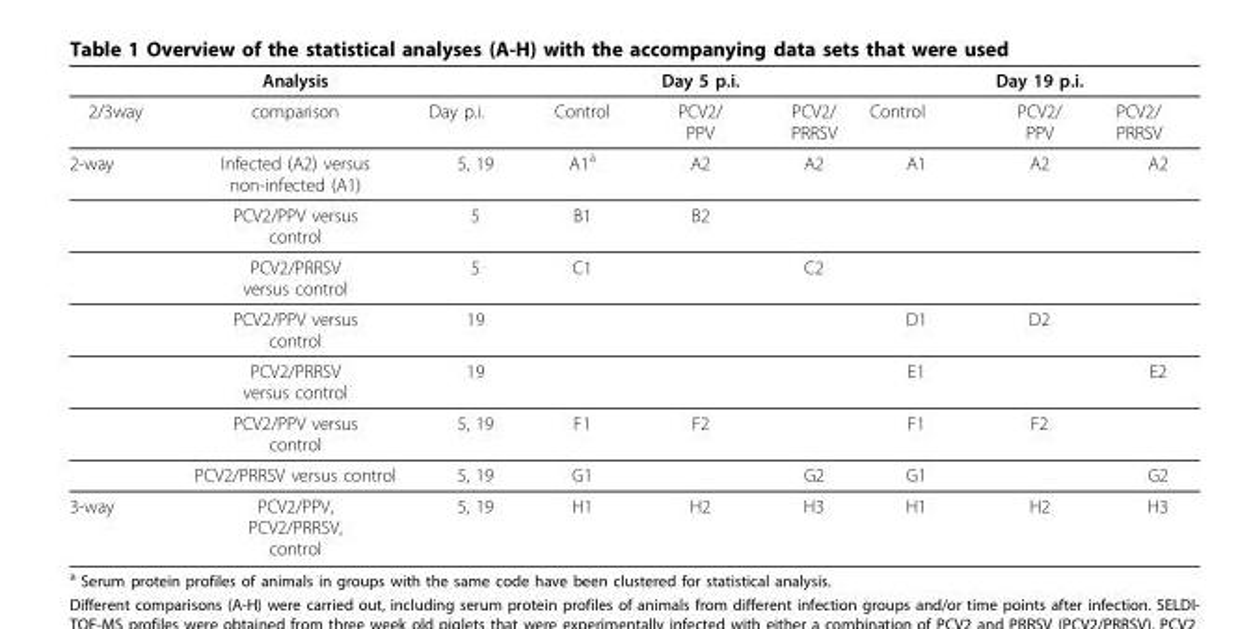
<table><thead><tr><td></td><td>Analysis</td><td></td><td></td><td>Day 5 p.i.</td><td></td><td></td><td>Day 19 p.i.</td><td></td></tr></thead><tbody><tr><td>2/3way</td><td>comparison</td><td>Day p.i.</td><td>Control</td><td>PCV2/ PPV</td><td>PCV2/ PRRSV</td><td>Control</td><td>PCV2/ PPV</td><td>PCV2/ PRRSV</td></tr><tr><td rowspan="7">2-way</td><td>Infected (A2) versus non-infected (A1)</td><td>5, 19</td><td>A1<sup>a</sup></td><td>A2</td><td>A2</td><td>A1</td><td>A2</td><td>A2</td></tr><tr><td>PCV2/PPV versus control</td><td>5</td><td>B1</td><td>B2</td><td></td><td></td><td></td><td></td></tr><tr><td>PCV2/PRRSV versus control</td><td>5</td><td>C1</td><td></td><td>C2</td><td></td><td></td><td></td></tr><tr><td>PCV2/PPV versus control</td><td>19</td><td></td><td></td><td></td><td>D1</td><td>D2</td><td></td></tr><tr><td>PCV2/PRRSV versus control</td><td>19</td><td></td><td></td><td></td><td>E1</td><td></td><td>E2</td></tr><tr><td>PCV2/PPV versus control</td><td>5, 19</td><td>F1</td><td>F2</td><td></td><td>F1</td><td>F2</td><td></td></tr><tr><td>PCV2/PRRSV versus control</td><td>5, 19</td><td>G1</td><td></td><td>G2</td><td>G1</td><td></td><td>G2</td></tr><tr><td>3-way</td><td>PCV2/PPV, PCV2/PRRSV, control</td><td>5, 19</td><td>H1</td><td>H2</td><td>H3</td><td>H1</td><td>H2</td><td>H3</td></tr></tbody></table>